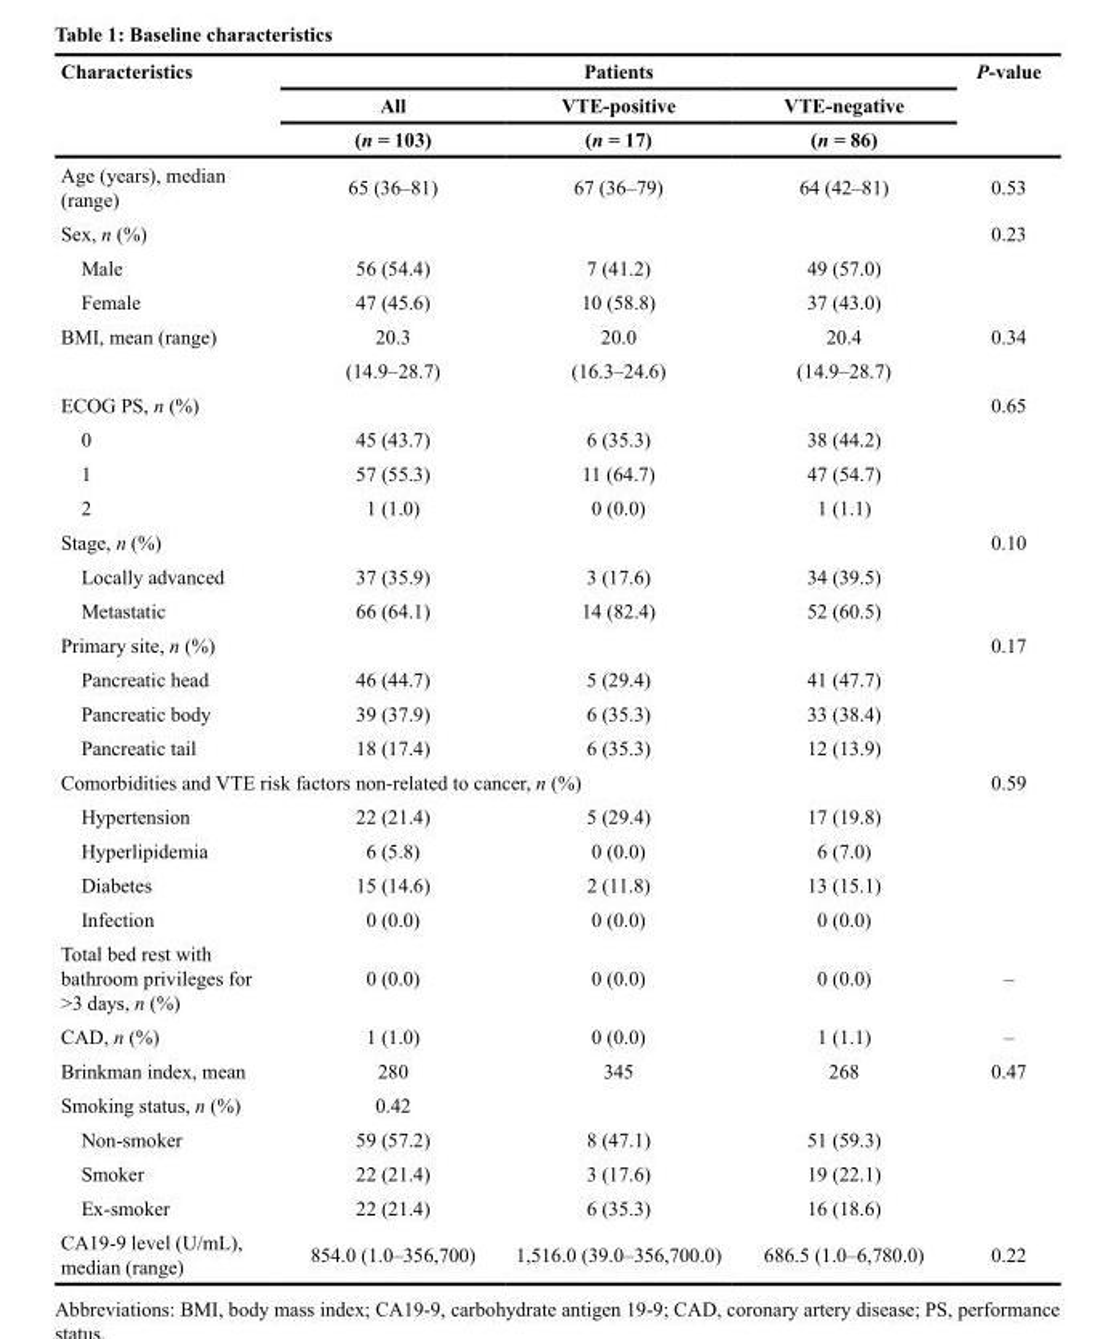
<table><thead><tr><td rowspan="3">Characteristics</td><td colspan="3">Patients</td><td rowspan="3">P-value</td></tr><tr><td rowspan="2">All (n = 103)</td><td rowspan="2">VTE-positive (n = 17)</td><td rowspan="2">VTE-negative (n = 86)</td></tr><tr></tr></thead><tbody><tr><td>Age (years), median (range)</td><td>65 (36–81)</td><td>67 (36–79)</td><td>64 (42–81)</td><td>0.53</td></tr><tr><td>Sex, n (%)</td><td></td><td></td><td></td><td>0.23</td></tr><tr><td>Male</td><td>56 (54.4)</td><td>7 (41.2)</td><td>49 (57.0)</td><td></td></tr><tr><td>Female</td><td>47 (45.6)</td><td>10 (58.8)</td><td>37 (43.0)</td><td></td></tr><tr><td rowspan="2">BMI, mean (range)</td><td>20.3</td><td>20.0</td><td>20.4</td><td>0.34</td></tr><tr><td>(14.9–28.7)</td><td>(16.3–24.6)</td><td>(14.9–28.7)</td><td></td></tr><tr><td>ECOG PS, n (%)</td><td></td><td></td><td></td><td>0.65</td></tr><tr><td>0</td><td>45 (43.7)</td><td>6 (35.3)</td><td>38 (44.2)</td><td></td></tr><tr><td>1</td><td>57 (55.3)</td><td>11 (64.7)</td><td>47 (54.7)</td><td></td></tr><tr><td>2</td><td>1 (1.0)</td><td>0 (0.0)</td><td>1 (1.1)</td><td></td></tr><tr><td>Stage, n (%)</td><td></td><td></td><td></td><td>0.10</td></tr><tr><td>Locally advanced</td><td>37 (35.9)</td><td>3 (17.6)</td><td>34 (39.5)</td><td></td></tr><tr><td>Metastatic</td><td>66 (64.1)</td><td>14 (82.4)</td><td>52 (60.5)</td><td></td></tr><tr><td>Primary site, n (%)</td><td></td><td></td><td></td><td>0.17</td></tr><tr><td>Pancreatic head</td><td>46 (44.7)</td><td>5 (29.4)</td><td>41 (47.7)</td><td></td></tr><tr><td>Pancreatic body</td><td>39 (37.9)</td><td>6 (35.3)</td><td>33 (38.4)</td><td></td></tr><tr><td>Pancreatic tail</td><td>18 (17.4)</td><td>6 (35.3)</td><td>12 (13.9)</td><td></td></tr><tr><td colspan="4">Comorbidities and VTE risk factors non-related to cancer, n (%)</td><td>0.59</td></tr><tr><td>Hypertension</td><td>22 (21.4)</td><td>5 (29.4)</td><td>17 (19.8)</td><td></td></tr><tr><td>Hyperlipidemia</td><td>6 (5.8)</td><td>0 (0.0)</td><td>6 (7.0)</td><td></td></tr><tr><td>Diabetes</td><td>15 (14.6)</td><td>2 (11.8)</td><td>13 (15.1)</td><td></td></tr><tr><td>Infection</td><td>0 (0.0)</td><td>0 (0.0)</td><td>0 (0.0)</td><td></td></tr><tr><td>Total bed rest with bathroom privileges for &gt;3 days, n (%)</td><td>0 (0.0)</td><td>0 (0.0)</td><td>0 (0.0)</td><td>–</td></tr><tr><td>CAD, n (%)</td><td>1 (1.0)</td><td>0 (0.0)</td><td>1 (1.1)</td><td>–</td></tr><tr><td>Brinkman index, mean</td><td>280</td><td>345</td><td>268</td><td>0.47</td></tr><tr><td>Smoking status, n (%)</td><td>0.42</td><td></td><td></td><td></td></tr><tr><td>Non-smoker</td><td>59 (57.2)</td><td>8 (47.1)</td><td>51 (59.3)</td><td></td></tr><tr><td>Smoker</td><td>22 (21.4)</td><td>3 (17.6)</td><td>19 (22.1)</td><td></td></tr><tr><td>Ex-smoker</td><td>22 (21.4)</td><td>6 (35.3)</td><td>16 (18.6)</td><td></td></tr><tr><td>CA19-9 level (U/mL), median (range)</td><td>854.0 (1.0–356,700)</td><td>1,516.0 (39.0–356,700.0)</td><td>686.5 (1.0–6,780.0)</td><td>0.22</td></tr></tbody></table>